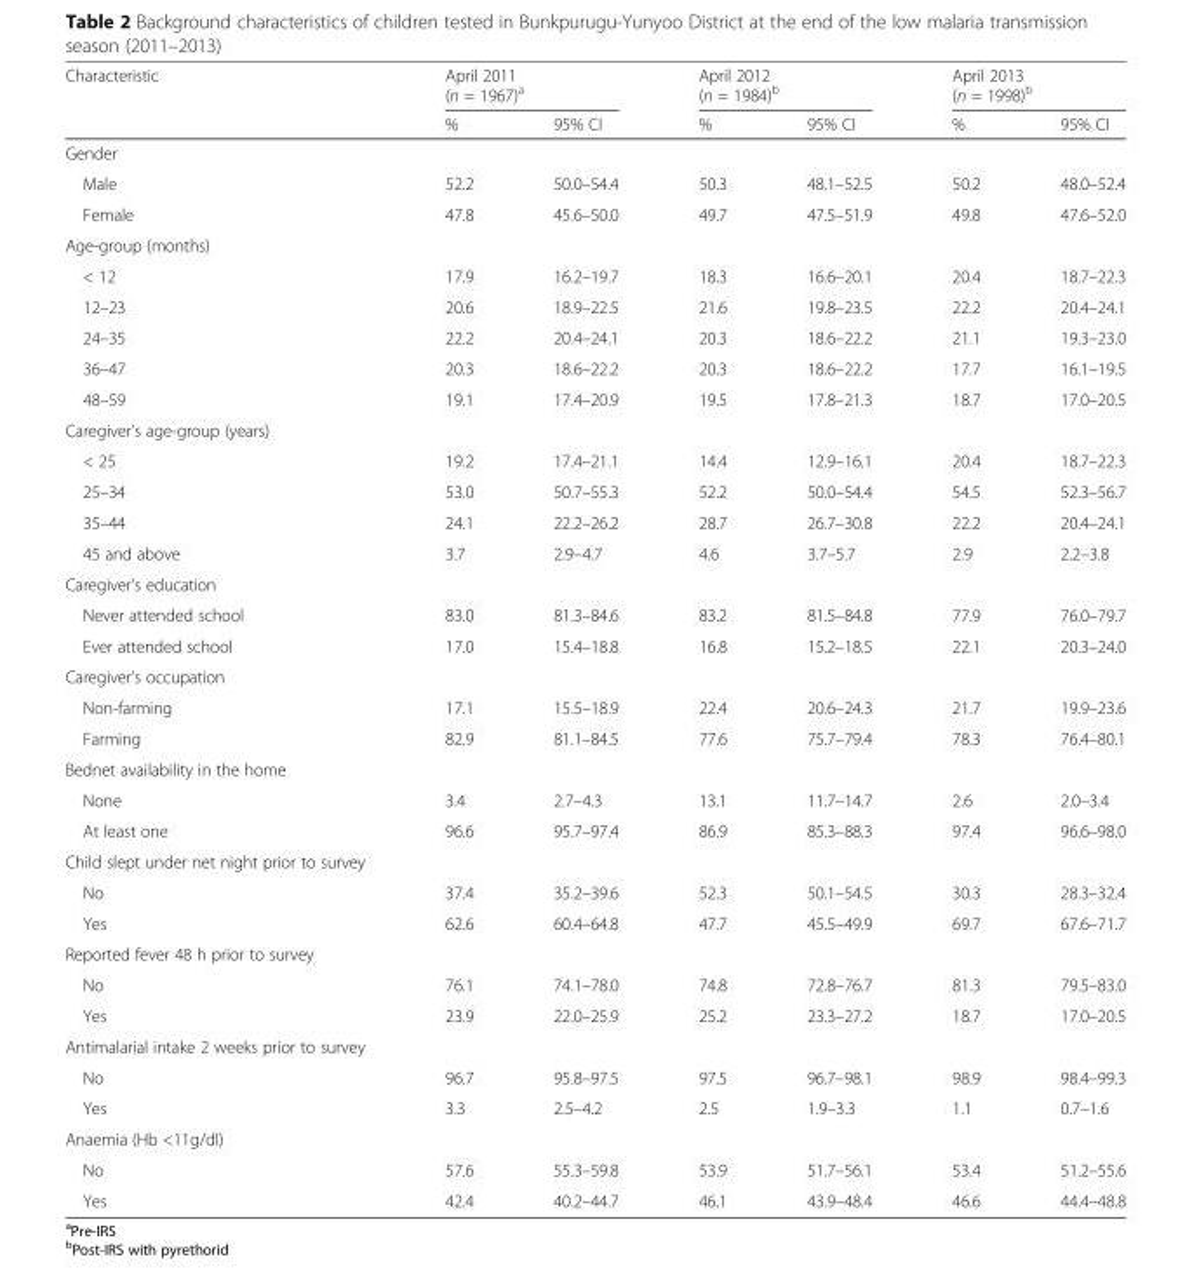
<table><thead><tr><td rowspan="2">Characteristic</td><td colspan="2">April 2011 (n = 1967)<sup>a</sup></td><td colspan="2">April 2012 (n = 1984)<sup>b</sup></td><td colspan="2">April 2013 (n = 1998)<sup>b</sup></td></tr><tr><td>%</td><td>95% CI</td><td>%</td><td>95% CI</td><td>%</td><td>95% CI</td></tr></thead><tbody><tr><td colspan="7">Gender</td></tr><tr><td>Male</td><td>52.2</td><td>50.0–54.4</td><td>50.3</td><td>48.1–52.5</td><td>50.2</td><td>48.0–52.4</td></tr><tr><td>Female</td><td>47.8</td><td>45.6–50.0</td><td>49.7</td><td>47.5–51.9</td><td>49.8</td><td>47.6–52.0</td></tr><tr><td colspan="7">Age-group (months)</td></tr><tr><td>&lt; 12</td><td>17.9</td><td>16.2–19.7</td><td>18.3</td><td>16.6–20.1</td><td>20.4</td><td>18.7–22.3</td></tr><tr><td>12–23</td><td>20.6</td><td>18.9–22.5</td><td>21.6</td><td>19.8–23.5</td><td>22.2</td><td>20.4–24.1</td></tr><tr><td>24–35</td><td>22.2</td><td>20.4–24.1</td><td>20.3</td><td>18.6–22.2</td><td>21.1</td><td>19.3–23.0</td></tr><tr><td>36–47</td><td>20.3</td><td>18.6–22.2</td><td>20.3</td><td>18.6–22.2</td><td>17.7</td><td>16.1–19.5</td></tr><tr><td>48–59</td><td>19.1</td><td>17.4–20.9</td><td>19.5</td><td>17.8–21.3</td><td>18.7</td><td>17.0–20.5</td></tr><tr><td colspan="7">Caregiver’s age-group (years)</td></tr><tr><td>&lt; 25</td><td>19.2</td><td>17.4–21.1</td><td>14.4</td><td>12.9–16.1</td><td>20.4</td><td>18.7–22.3</td></tr><tr><td>25–34</td><td>53.0</td><td>50.7–55.3</td><td>52.2</td><td>50.0–54.4</td><td>54.5</td><td>52.3–56.7</td></tr><tr><td>35–44</td><td>24.1</td><td>22.2–26.2</td><td>28.7</td><td>26.7–30.8</td><td>22.2</td><td>20.4–24.1</td></tr><tr><td>45 and above</td><td>3.7</td><td>2.9–4.7</td><td>4.6</td><td>3.7–5.7</td><td>2.9</td><td>2.2–3.8</td></tr><tr><td colspan="7">Caregiver’s education</td></tr><tr><td>Never attended school</td><td>83.0</td><td>81.3–84.6</td><td>83.2</td><td>81.5–84.8</td><td>77.9</td><td>76.0–79.7</td></tr><tr><td>Ever attended school</td><td>17.0</td><td>15.4–18.8</td><td>16.8</td><td>15.2–18.5</td><td>22.1</td><td>20.3–24.0</td></tr><tr><td colspan="7">Caregiver’s occupation</td></tr><tr><td>Non-farming</td><td>17.1</td><td>15.5–18.9</td><td>22.4</td><td>20.6–24.3</td><td>21.7</td><td>19.9–23.6</td></tr><tr><td>Farming</td><td>82.9</td><td>81.1–84.5</td><td>77.6</td><td>75.7–79.4</td><td>78.3</td><td>76.4–80.1</td></tr><tr><td colspan="7">Bednet availability in the home</td></tr><tr><td>None</td><td>3.4</td><td>2.7–4.3</td><td>13.1</td><td>11.7–14.7</td><td>2.6</td><td>2.0–3.4</td></tr><tr><td>At least one</td><td>96.6</td><td>95.7–97.4</td><td>86.9</td><td>85.3–88.3</td><td>97.4</td><td>96.6–98.0</td></tr><tr><td colspan="7">Child slept under net night prior to survey</td></tr><tr><td>No</td><td>37.4</td><td>35.2–39.6</td><td>52.3</td><td>50.1–54.5</td><td>30.3</td><td>28.3–32.4</td></tr><tr><td>Yes</td><td>62.6</td><td>60.4–64.8</td><td>47.7</td><td>45.5–49.9</td><td>69.7</td><td>67.6–71.7</td></tr><tr><td colspan="7">Reported fever 48 h prior to survey</td></tr><tr><td>No</td><td>76.1</td><td>74.1–78.0</td><td>74.8</td><td>72.8–76.7</td><td>81.3</td><td>79.5–83.0</td></tr><tr><td>Yes</td><td>23.9</td><td>22.0–25.9</td><td>25.2</td><td>23.3–27.2</td><td>18.7</td><td>17.0–20.5</td></tr><tr><td colspan="7">Antimalarial intake 2 weeks prior to survey</td></tr><tr><td>No</td><td>96.7</td><td>95.8–97.5</td><td>97.5</td><td>96.7–98.1</td><td>98.9</td><td>98.4–99.3</td></tr><tr><td>Yes</td><td>3.3</td><td>2.5–4.2</td><td>2.5</td><td>1.9–3.3</td><td>1.1</td><td>0.7–1.6</td></tr><tr><td colspan="7">Anaemia (Hb &lt;11g/dl)</td></tr><tr><td>No</td><td>57.6</td><td>55.3–59.8</td><td>53.9</td><td>51.7–56.1</td><td>53.4</td><td>51.2–55.6</td></tr><tr><td>Yes</td><td>42.4</td><td>40.2–44.7</td><td>46.1</td><td>43.9–48.4</td><td>46.6</td><td>44.4–48.8</td></tr></tbody></table>